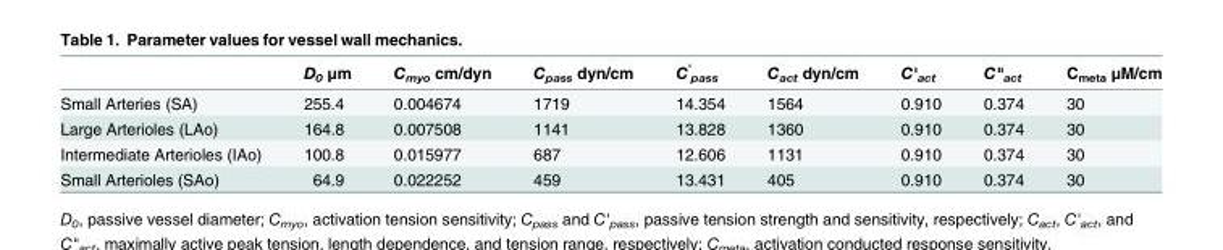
<table><thead><tr><td></td><td>D<sub>0</sub> μm</td><td>C<sub>myo</sub> cm/dyn</td><td>C<sub>pass</sub> dyn/cm</td><td>C<sup>&#x27;</sup> <sub>pass</sub></td><td>C<sub>act</sub> dyn/cm</td><td>C&#x27;<sub>act</sub></td><td>C&quot;<sub>act</sub></td><td>C<sub>meta</sub> μM/cm</td></tr></thead><tbody><tr><td>Small Arteries (SA)</td><td>255.4</td><td>0.004674</td><td>1719</td><td>14.354</td><td>1564</td><td>0.910</td><td>0.374</td><td>30</td></tr><tr><td>Large Arterioles (LAo)</td><td>164.8</td><td>0.007508</td><td>1141</td><td>13.828</td><td>1360</td><td>0.910</td><td>0.374</td><td>30</td></tr><tr><td>Intermediate Arterioles (IAo)</td><td>100.8</td><td>0.015977</td><td>687</td><td>12.606</td><td>1131</td><td>0.910</td><td>0.374</td><td>30</td></tr><tr><td>Small Arterioles (SAo)</td><td>64.9</td><td>0.022252</td><td>459</td><td>13.431</td><td>405</td><td>0.910</td><td>0.374</td><td>30</td></tr></tbody></table>